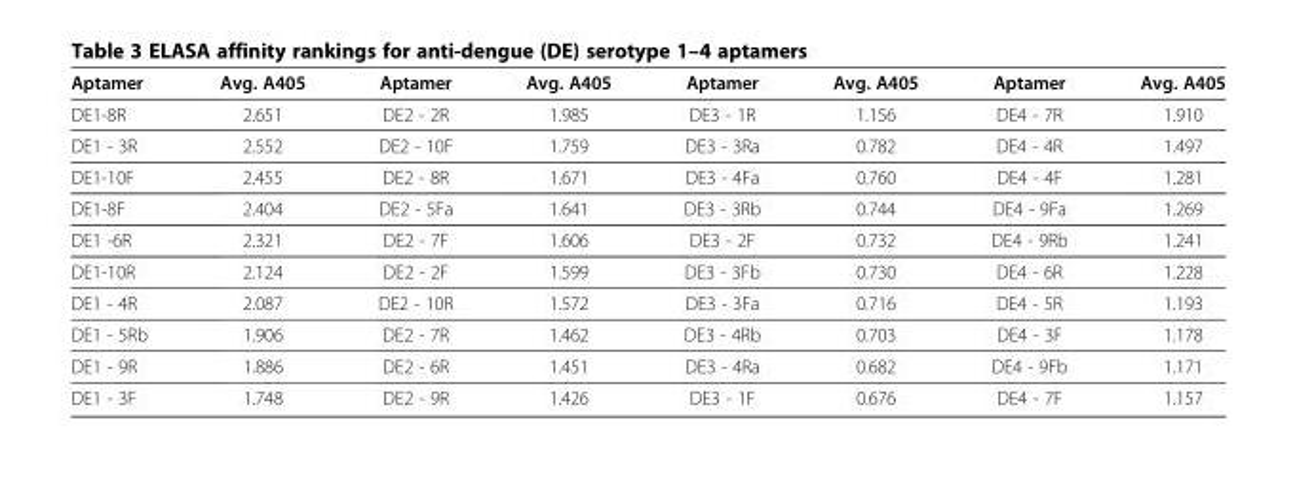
<table><thead><tr><td>Aptamer</td><td>Avg. A405</td><td>Aptamer</td><td>Avg. A405</td><td>Aptamer</td><td>Avg. A405</td><td>Aptamer</td><td>Avg. A405</td></tr></thead><tbody><tr><td>DE1-8R</td><td>2.651</td><td>DE2 - 2R</td><td>1.985</td><td>DE3 - 1R</td><td>1.156</td><td>DE4 - 7R</td><td>1.910</td></tr><tr><td>DE1 - 3R</td><td>2.552</td><td>DE2 - 10F</td><td>1.759</td><td>DE3 - 3Ra</td><td>0.782</td><td>DE4 - 4R</td><td>1.497</td></tr><tr><td>DE1-10F</td><td>2.455</td><td>DE2 - 8R</td><td>1.671</td><td>DE3 - 4Fa</td><td>0.760</td><td>DE4 - 4F</td><td>1.281</td></tr><tr><td>DE1-8F</td><td>2.404</td><td>DE2 - 5Fa</td><td>1.641</td><td>DE3 - 3Rb</td><td>0.744</td><td>DE4 - 9Fa</td><td>1.269</td></tr><tr><td>DE1 -6R</td><td>2.321</td><td>DE2 - 7F</td><td>1.606</td><td>DE3 - 2F</td><td>0.732</td><td>DE4 - 9Rb</td><td>1.241</td></tr><tr><td>DE1-10R</td><td>2.124</td><td>DE2 - 2F</td><td>1.599</td><td>DE3 - 3Fb</td><td>0.730</td><td>DE4 - 6R</td><td>1.228</td></tr><tr><td>DE1 - 4R</td><td>2.087</td><td>DE2 - 10R</td><td>1.572</td><td>DE3 - 3Fa</td><td>0.716</td><td>DE4 - 5R</td><td>1.193</td></tr><tr><td>DE1 - 5Rb</td><td>1.906</td><td>DE2 - 7R</td><td>1.462</td><td>DE3 - 4Rb</td><td>0.703</td><td>DE4 - 3F</td><td>1.178</td></tr><tr><td>DE1 - 9R</td><td>1.886</td><td>DE2 - 6R</td><td>1.451</td><td>DE3 - 4Ra</td><td>0.682</td><td>DE4 - 9Fb</td><td>1.171</td></tr><tr><td>DE1 - 3F</td><td>1.748</td><td>DE2 - 9R</td><td>1.426</td><td>DE3 - 1F</td><td>0.676</td><td>DE4 - 7F</td><td>1.157</td></tr></tbody></table>